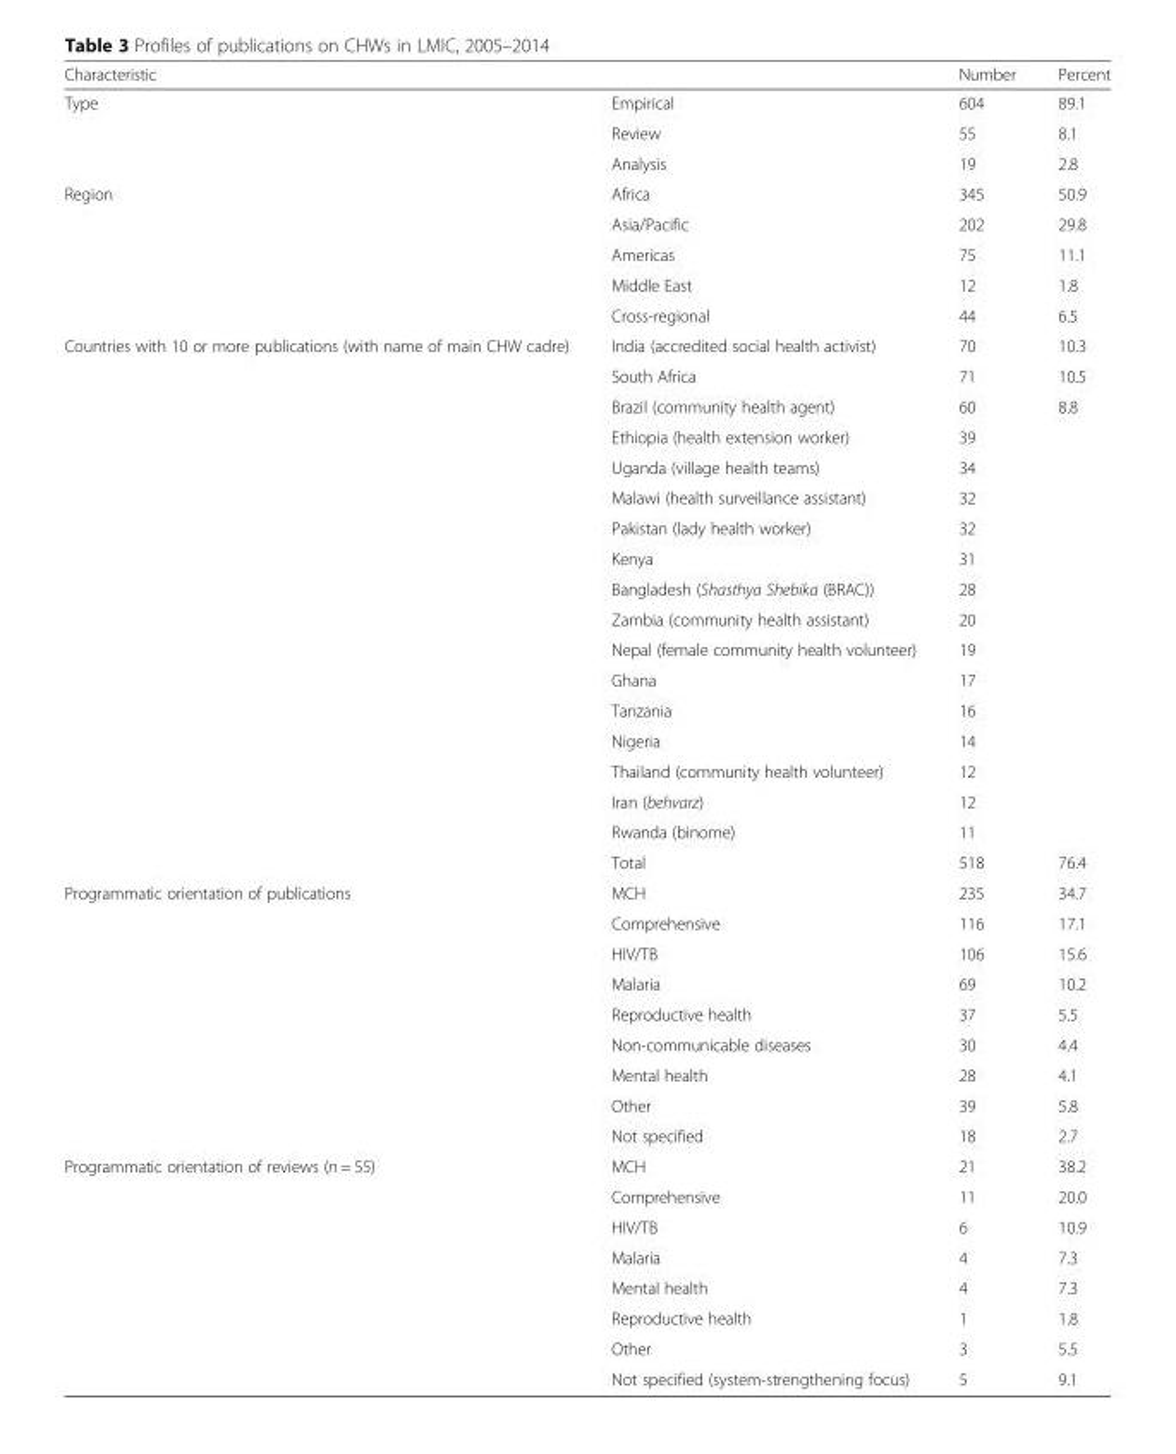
<table><thead><tr><td>Characteristic</td><td></td><td>Number</td><td>Percent</td></tr></thead><tbody><tr><td rowspan="3">Type</td><td>Empirical</td><td>604</td><td>89.1</td></tr><tr><td>Review</td><td>55</td><td>8.1</td></tr><tr><td>Analysis</td><td>19</td><td>2.8</td></tr><tr><td rowspan="5">Region</td><td>Africa</td><td>345</td><td>50.9</td></tr><tr><td>Asia/Pacific</td><td>202</td><td>29.8</td></tr><tr><td>Americas</td><td>75</td><td>11.1</td></tr><tr><td>Middle East</td><td>12</td><td>1.8</td></tr><tr><td>Cross-regional</td><td>44</td><td>6.5</td></tr><tr><td rowspan="18">Countries with 10 or more publications (with name of main CHW cadre)</td><td>India (accredited social health activist)</td><td>70</td><td>10.3</td></tr><tr><td>South Africa</td><td>71</td><td>10.5</td></tr><tr><td>Brazil (community health agent)</td><td>60</td><td>8.8</td></tr><tr><td>Ethiopia (health extension worker)</td><td>39</td><td rowspan="14"></td></tr><tr><td>Uganda (village health teams)</td><td>34</td></tr><tr><td>Malawi (health surveillance assistant)</td><td>32</td></tr><tr><td>Pakistan (lady health worker)</td><td>32</td></tr><tr><td>Kenya</td><td>31</td></tr><tr><td>Bangladesh (Shasthya Shebika (BRAC))</td><td>28</td></tr><tr><td>Zambia (community health assistant)</td><td>20</td></tr><tr><td>Nepal (female community health volunteer)</td><td>19</td></tr><tr><td>Ghana</td><td>17</td></tr><tr><td>Tanzania</td><td>16</td></tr><tr><td>Nigeria</td><td>14</td></tr><tr><td>Thailand (community health volunteer)</td><td>12</td></tr><tr><td>Iran (behvarz)</td><td>12</td></tr><tr><td>Rwanda (binome)</td><td>11</td></tr><tr><td>Total</td><td>518</td><td>76.4</td></tr><tr><td rowspan="9">Programmatic orientation of publications</td><td>MCH</td><td>235</td><td>34.7</td></tr><tr><td>Comprehensive</td><td>116</td><td>17.1</td></tr><tr><td>HIV/TB</td><td>106</td><td>15.6</td></tr><tr><td>Malaria</td><td>69</td><td>10.2</td></tr><tr><td>Reproductive health</td><td>37</td><td>5.5</td></tr><tr><td>Non-communicable diseases</td><td>30</td><td>4.4</td></tr><tr><td>Mental health</td><td>28</td><td>4.1</td></tr><tr><td>Other</td><td>39</td><td>5.8</td></tr><tr><td>Not specified</td><td>18</td><td>2.7</td></tr><tr><td rowspan="8">Programmatic orientation of reviews (n = 55)</td><td>MCH</td><td>21</td><td>38.2</td></tr><tr><td>Comprehensive</td><td>11</td><td>20.0</td></tr><tr><td>HIV/TB</td><td>6</td><td>10.9</td></tr><tr><td>Malaria</td><td>4</td><td>7.3</td></tr><tr><td>Mental health</td><td>4</td><td>7.3</td></tr><tr><td>Reproductive health</td><td>1</td><td>1.8</td></tr><tr><td>Other</td><td>3</td><td>5.5</td></tr><tr><td>Not specified (system-strengthening focus)</td><td>5</td><td>9.1</td></tr></tbody></table>